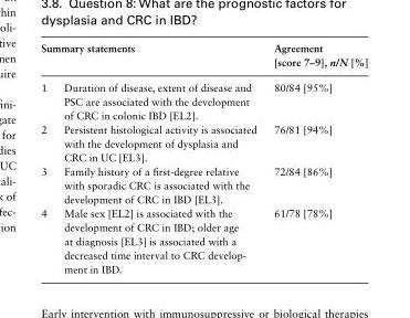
<table><thead><tr><td colspan="2">Summary statements</td><td rowspan="2">Agreement [score 7–9], n/N [%] 80/84 [95%]</td></tr><tr><td>1</td><td>Duration of disease, extent of disease and PSC are associated with the development of CRC in colonic IBD [EL2].</td></tr></thead><tbody><tr><td>2</td><td>Persistent histological activity is associated with the development of dysplasia and CRC in UC [EL3].</td><td>76/81 [94%]</td></tr><tr><td>3</td><td>Family history of a first-degree relative with sporadic CRC is associated with the development of CRC in IBD [EL3].</td><td>72/84 [86%]</td></tr><tr><td>4</td><td>Male sex [EL2] is associated with the development of CRC in IBD; older age at diagnosis [EL3] is associated with a decreased time interval to CRC develop- ment in IBD.</td><td>61/78 [78%]</td></tr></tbody></table>